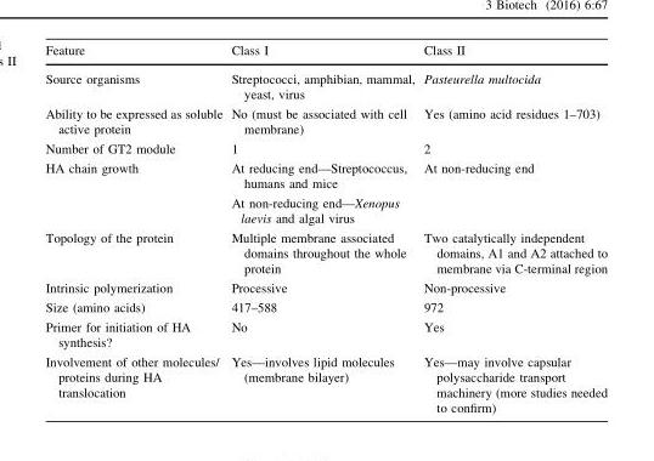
<table><thead><tr><td>Feature</td><td>Class I</td><td>Class II</td></tr></thead><tbody><tr><td>Source organisms</td><td>Streptococci, amphibian, mammal, yeast, virus</td><td>Pasteurella multocida</td></tr><tr><td>Ability to be expressed as soluble active protein</td><td>No (must be associated with cell membrane)</td><td>Yes (amino acid residues 1–703)</td></tr><tr><td>Number of GT2 module</td><td>1</td><td>2</td></tr><tr><td>HA chain growth</td><td>At reducing end—Streptococcus, humans and mice At non-reducing end—Xenopus laevis and algal virus</td><td>At non-reducing end</td></tr><tr><td>Topology of the protein</td><td>Multiple membrane associated domains throughout the whole protein</td><td>Two catalytically independent domains, A1 and A2 attached to membrane via C-terminal region</td></tr><tr><td>Intrinsic polymerization</td><td>Processive</td><td>Non-processive</td></tr><tr><td>Size (amino acids)</td><td>417–588</td><td>972</td></tr><tr><td>Primer for initiation of HA synthesis?</td><td>No</td><td>Yes</td></tr><tr><td>Involvement of other molecules/ proteins during HA translocation</td><td>Yes—involves lipid molecules (membrane bilayer)</td><td>Yes—may involve capsular polysaccharide transport machinery (more studies needed to confirm)</td></tr></tbody></table>